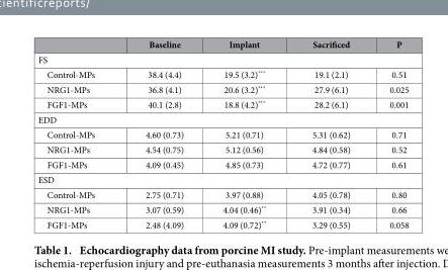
<table><thead><tr><td></td><td>Baseline</td><td>Implant</td><td>Sacrificed</td><td>P</td></tr></thead><tbody><tr><td colspan="5">FS</td></tr><tr><td>Control-MPs</td><td>38.4 (4.4)</td><td>19.5 (3.2)***</td><td>19.1 (2.1)</td><td>0.51</td></tr><tr><td>NRG1-MPs</td><td>36.8 (4.1)</td><td>20.6 (3.2)***</td><td>27.9 (6.1)</td><td>0.025</td></tr><tr><td>FGF1-MPs</td><td>40.1 (2.8)</td><td>18.8 (4.2)***</td><td>28.2 (6.1)</td><td>0.001</td></tr><tr><td colspan="5">EDD</td></tr><tr><td>Control-MPs</td><td>4.60 (0.73)</td><td>5.21 (0.71)</td><td>5.31 (0.62)</td><td>0.71</td></tr><tr><td>NRG1-MPs</td><td>4.54 (0.75)</td><td>5.12 (0.56)</td><td>4.84 (0.58)</td><td>0.52</td></tr><tr><td>FGF1-MPs</td><td>4.09 (0.45)</td><td>4.85 (0.73)</td><td>4.72 (0.77)</td><td>0.61</td></tr><tr><td colspan="5">ESD</td></tr><tr><td>Control-MPs</td><td>2.75 (0.71)</td><td>3.97 (0.88)</td><td>4.05 (0.78)</td><td>0.80</td></tr><tr><td>NRG1-MPs</td><td>3.07 (0.59)</td><td>4.04 (0.46)**</td><td>3.91 (0.34)</td><td>0.66</td></tr><tr><td>FGF1-MPs</td><td>2.48 (4.09)</td><td>4.09 (0.72)**</td><td>3.29 (0.55)</td><td>0.058</td></tr></tbody></table>